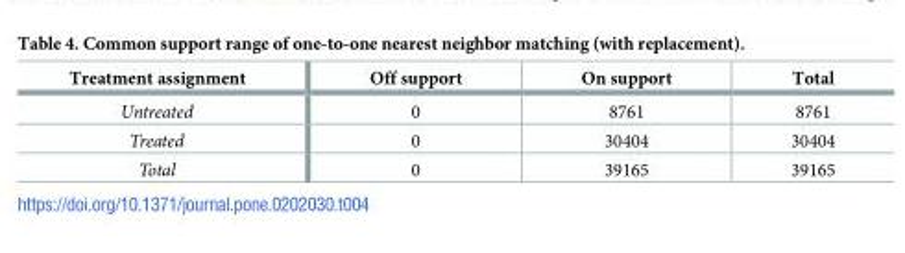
<table><thead><tr><td>Treatment assignment</td><td>Off support</td><td>On support</td><td>Total</td></tr></thead><tbody><tr><td>Untreated</td><td>0</td><td>8761</td><td>8761</td></tr><tr><td>Treated</td><td>0</td><td>30404</td><td>30404</td></tr><tr><td>Total</td><td>0</td><td>39165</td><td>39165</td></tr></tbody></table>